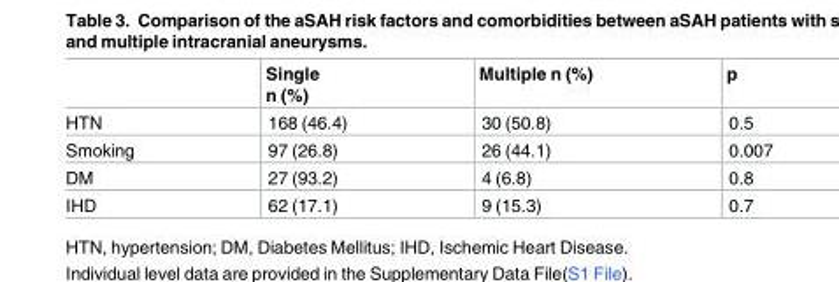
<table><thead><tr><td></td><td>Single n (%)</td><td>Multiple n (%)</td><td>p</td></tr></thead><tbody><tr><td>HTN</td><td>168 (46.4)</td><td>30 (50.8)</td><td>0.5</td></tr><tr><td>Smoking</td><td>97 (26.8)</td><td>26 (44.1)</td><td>0.007</td></tr><tr><td>DM</td><td>27 (93.2)</td><td>4 (6.8)</td><td>0.8</td></tr><tr><td>IHD</td><td>62 (17.1)</td><td>9 (15.3)</td><td>0.7</td></tr></tbody></table>